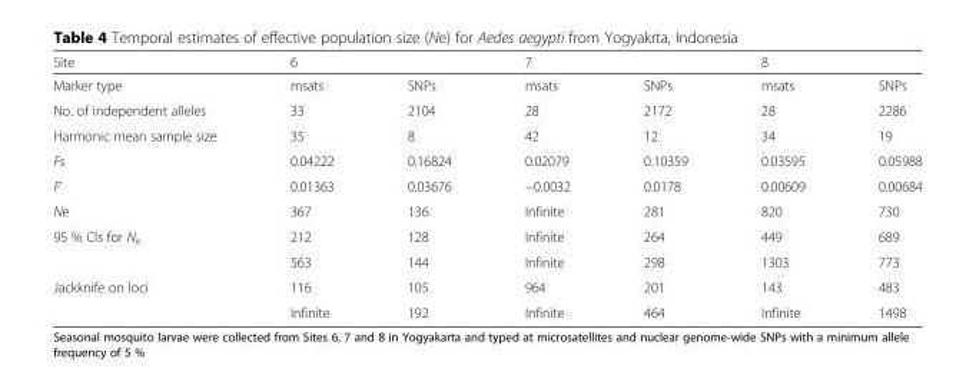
<table><thead><tr><td rowspan="2">Site Marker type</td><td colspan="2">6</td><td colspan="2">7</td><td colspan="2">8</td></tr><tr><td>msats</td><td>SNPs</td><td>msats</td><td>SNPs</td><td>msats</td><td>SNPs</td></tr></thead><tbody><tr><td>No. of independent alleles</td><td>33</td><td>2104</td><td>28</td><td>2172</td><td>28</td><td>2286</td></tr><tr><td>Harmonic mean sample size</td><td>35</td><td>8</td><td>42</td><td>12</td><td>34</td><td>19</td></tr><tr><td>Fs</td><td>0.04222</td><td>0.16824</td><td>0.02079</td><td>0.10359</td><td>0.03595</td><td>0.05988</td></tr><tr><td>F’</td><td>0.01363</td><td>0.03676</td><td>−0.0032</td><td>0.0178</td><td>0.00609</td><td>0.00684</td></tr><tr><td>Ne</td><td>367</td><td>136</td><td>Infinite</td><td>281</td><td>820</td><td>730</td></tr><tr><td rowspan="2">95 % CIs for N<sub>e</sub></td><td>212</td><td>128</td><td>Infinite</td><td>264</td><td>449</td><td>689</td></tr><tr><td>563</td><td>144</td><td>Infinite</td><td>298</td><td>1303</td><td>773</td></tr><tr><td rowspan="2">Jackknife on loci</td><td>116</td><td>105</td><td>964</td><td>201</td><td>143</td><td>483</td></tr><tr><td>Infinite</td><td>192</td><td>Infinite</td><td>464</td><td>Infinite</td><td>1498</td></tr></tbody></table>